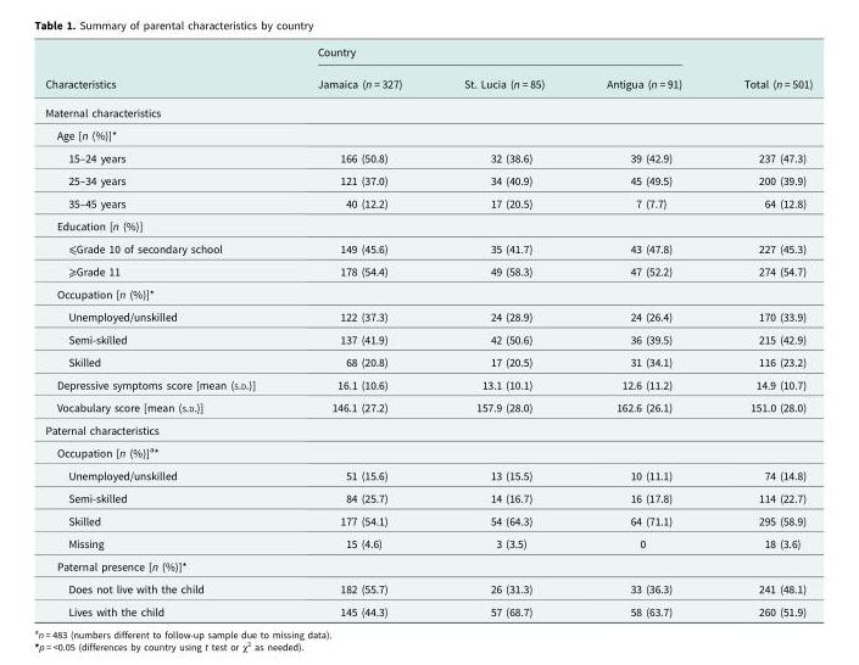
<table><thead><tr><td rowspan="2">Characteristics</td><td colspan="3">Country</td><td rowspan="2">Total (n = 501)</td></tr><tr><td>Jamaica (n = 327)</td><td>St. Lucia (n = 85)</td><td>Antigua (n = 91)</td></tr></thead><tbody><tr><td colspan="5">Maternal characteristics</td></tr><tr><td colspan="5">Age [n (%)]*</td></tr><tr><td>15–24 years</td><td>166 (50.8)</td><td>32 (38.6)</td><td>39 (42.9)</td><td>237 (47.3)</td></tr><tr><td>25–34 years</td><td>121 (37.0)</td><td>34 (40.9)</td><td>45 (49.5)</td><td>200 (39.9)</td></tr><tr><td>35–45 years</td><td>40 (12.2)</td><td>17 (20.5)</td><td>7 (7.7)</td><td>64 (12.8)</td></tr><tr><td colspan="5">Education [n (%)]</td></tr><tr><td>⩽Grade 10 of secondary school</td><td>149 (45.6)</td><td>35 (41.7)</td><td>43 (47.8)</td><td>227 (45.3)</td></tr><tr><td>⩾Grade 11</td><td>178 (54.4)</td><td>49 (58.3)</td><td>47 (52.2)</td><td>274 (54.7)</td></tr><tr><td colspan="5">Occupation [n (%)]*</td></tr><tr><td>Unemployed/unskilled</td><td>122 (37.3)</td><td>24 (28.9)</td><td>24 (26.4)</td><td>170 (33.9)</td></tr><tr><td>Semi-skilled</td><td>137 (41.9)</td><td>42 (50.6)</td><td>36 (39.5)</td><td>215 (42.9)</td></tr><tr><td>Skilled</td><td>68 (20.8)</td><td>17 (20.5)</td><td>31 (34.1)</td><td>116 (23.2)</td></tr><tr><td>Depressive symptoms score [mean (S.D.)]</td><td>16.1 (10.6)</td><td>13.1 (10.1)</td><td>12.6 (11.2)</td><td>14.9 (10.7)</td></tr><tr><td>Vocabulary score [mean (S.D.)]</td><td>146.1 (27.2)</td><td>157.9 (28.0)</td><td>162.6 (26.1)</td><td>151.0 (28.0)</td></tr><tr><td colspan="5">Paternal characteristics</td></tr><tr><td colspan="5">Occupation [n (%)]<sup>a</sup>*</td></tr><tr><td>Unemployed/unskilled</td><td>51 (15.6)</td><td>13 (15.5)</td><td>10 (11.1)</td><td>74 (14.8)</td></tr><tr><td>Semi-skilled</td><td>84 (25.7)</td><td>14 (16.7)</td><td>16 (17.8)</td><td>114 (22.7)</td></tr><tr><td>Skilled</td><td>177 (54.1)</td><td>54 (64.3)</td><td>64 (71.1)</td><td>295 (58.9)</td></tr><tr><td>Missing</td><td>15 (4.6)</td><td>3 (3.5)</td><td>0</td><td>18 (3.6)</td></tr><tr><td colspan="5">Paternal presence [n (%)]*</td></tr><tr><td>Does not live with the child</td><td>182 (55.7)</td><td>26 (31.3)</td><td>33 (36.3)</td><td>241 (48.1)</td></tr><tr><td>Lives with the child</td><td>145 (44.3)</td><td>57 (68.7)</td><td>58 (63.7)</td><td>260 (51.9)</td></tr></tbody></table>